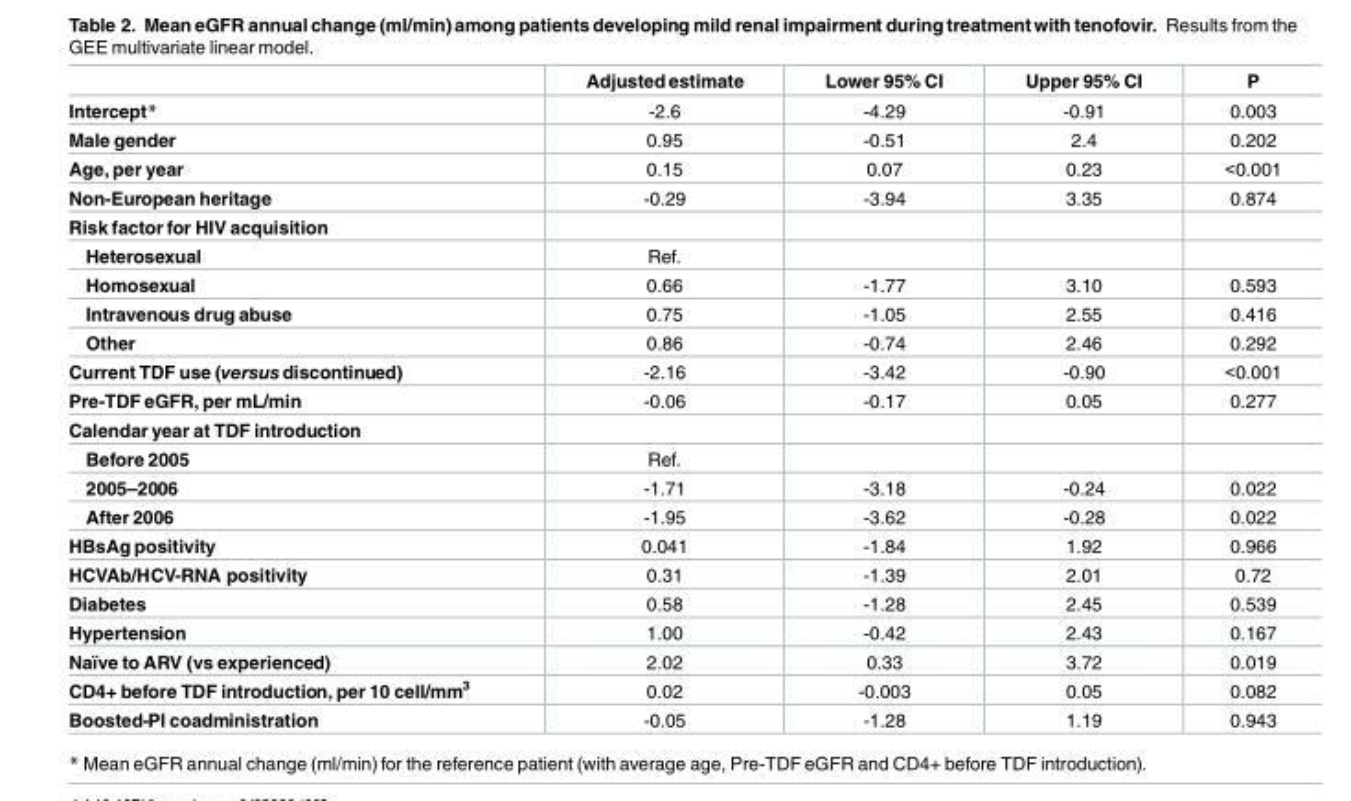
<table><thead><tr><td></td><td>Adjusted estimate</td><td>Lower 95% CI</td><td>Upper 95% CI</td><td>P</td></tr></thead><tbody><tr><td>Intercept*</td><td>-2.6</td><td>-4.29</td><td>-0.91</td><td>0.003</td></tr><tr><td>Male gender</td><td>0.95</td><td>-0.51</td><td>2.4</td><td>0.202</td></tr><tr><td>Age, per year</td><td>0.15</td><td>0.07</td><td>0.23</td><td>&lt;0.001</td></tr><tr><td>Non-European heritage</td><td>-0.29</td><td>-3.94</td><td>3.35</td><td>0.874</td></tr><tr><td colspan="5">Risk factor for HIV acquisition</td></tr><tr><td>Heterosexual</td><td>Ref.</td><td></td><td></td><td></td></tr><tr><td>Homosexual</td><td>0.66</td><td>-1.77</td><td>3.10</td><td>0.593</td></tr><tr><td>Intravenous drug abuse</td><td>0.75</td><td>-1.05</td><td>2.55</td><td>0.416</td></tr><tr><td>Other</td><td>0.86</td><td>-0.74</td><td>2.46</td><td>0.292</td></tr><tr><td>Current TDF use (versus discontinued)</td><td>-2.16</td><td>-3.42</td><td>-0.90</td><td>&lt;0.001</td></tr><tr><td>Pre-TDF eGFR, per mL/min</td><td>-0.06</td><td>-0.17</td><td>0.05</td><td>0.277</td></tr><tr><td colspan="5">Calendar year at TDF introduction</td></tr><tr><td>Before 2005</td><td>Ref.</td><td></td><td></td><td></td></tr><tr><td>2005–2006</td><td>-1.71</td><td>-3.18</td><td>-0.24</td><td>0.022</td></tr><tr><td>After 2006</td><td>-1.95</td><td>-3.62</td><td>-0.28</td><td>0.022</td></tr><tr><td>HBsAg positivity</td><td>0.041</td><td>-1.84</td><td>1.92</td><td>0.966</td></tr><tr><td>HCVAb/HCV-RNA positivity</td><td>0.31</td><td>-1.39</td><td>2.01</td><td>0.72</td></tr><tr><td>Diabetes</td><td>0.58</td><td>-1.28</td><td>2.45</td><td>0.539</td></tr><tr><td>Hypertension</td><td>1.00</td><td>-0.42</td><td>2.43</td><td>0.167</td></tr><tr><td>Naïve to ARV (vs experienced)</td><td>2.02</td><td>0.33</td><td>3.72</td><td>0.019</td></tr><tr><td>CD4+ before TDF introduction, per 10 cell/mm<sup>3</sup></td><td>0.02</td><td>-0.003</td><td>0.05</td><td>0.082</td></tr><tr><td>Boosted-PI coadministration</td><td>-0.05</td><td>-1.28</td><td>1.19</td><td>0.943</td></tr></tbody></table>